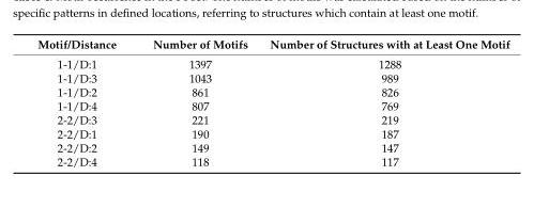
<table><thead><tr><td>Motif/Distance</td><td>Number of Motifs</td><td>Number of Structures with at Least One Motif</td></tr></thead><tbody><tr><td>1-1/D:1</td><td>1397</td><td>1288</td></tr><tr><td>1-1/D:3</td><td>1043</td><td>989</td></tr><tr><td>1-1/D:2</td><td>861</td><td>826</td></tr><tr><td>1-1/D:4</td><td>807</td><td>769</td></tr><tr><td>2-2/D:3</td><td>221</td><td>219</td></tr><tr><td>2-2/D:1</td><td>190</td><td>187</td></tr><tr><td>2-2/D:2</td><td>149</td><td>147</td></tr><tr><td>2-2/D:4</td><td>118</td><td>117</td></tr></tbody></table>